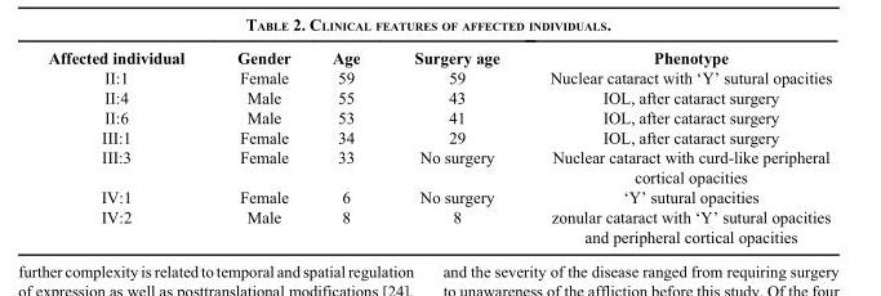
<table><thead><tr><td>Affected individual</td><td>Gender</td><td>Age</td><td>Surgery age</td><td>Phenotype</td></tr></thead><tbody><tr><td>II:1</td><td>Female</td><td>59</td><td>59</td><td>Nuclear cataract with ‘Y’ sutural opacities</td></tr><tr><td>II:4</td><td>Male</td><td>55</td><td>43</td><td>IOL, after cataract surgery</td></tr><tr><td>II:6</td><td>Male</td><td>53</td><td>41</td><td>IOL, after cataract surgery</td></tr><tr><td>III:1</td><td>Female</td><td>34</td><td>29</td><td>IOL, after cataract surgery</td></tr><tr><td>III:3</td><td>Female</td><td>33</td><td>No surgery</td><td>Nuclear cataract with curd-like peripheral cortical opacities</td></tr><tr><td>IV:1</td><td>Female</td><td>6</td><td>No surgery</td><td>‘Y’ sutural opacities</td></tr><tr><td>IV:2</td><td>Male</td><td>8</td><td>8</td><td>zonular cataract with ‘Y’ sutural opacities and peripheral cortical opacities</td></tr></tbody></table>